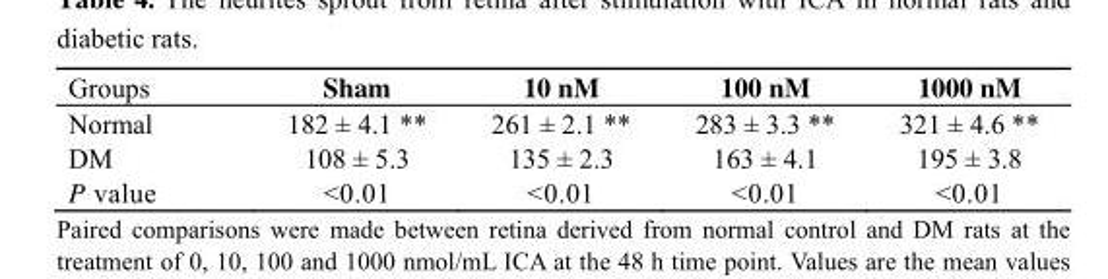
<table><thead><tr><td>Groups</td><td>Sham</td><td>10 nM</td><td>100 nM</td><td>1000 nM</td></tr></thead><tbody><tr><td>Normal</td><td>182 ± 4.1 **</td><td>261 ± 2.1 **</td><td>283 ± 3.3 **</td><td>321 ± 4.6 **</td></tr><tr><td>DM</td><td>108 ± 5.3</td><td>135 ± 2.3</td><td>163 ± 4.1</td><td>195 ± 3.8</td></tr><tr><td>P value</td><td>&lt;0.01</td><td>&lt;0.01</td><td>&lt;0.01</td><td>&lt;0.01</td></tr></tbody></table>